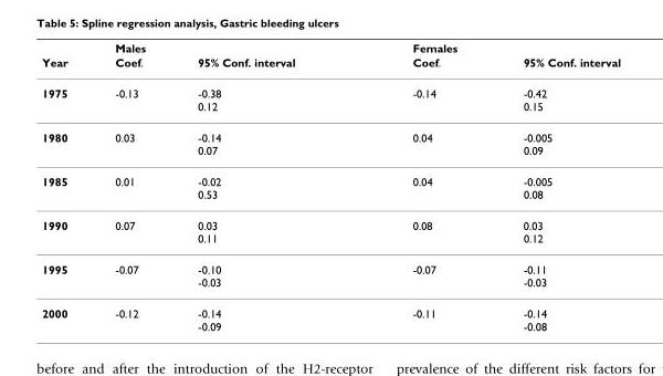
<table><thead><tr><td rowspan="2">Year</td><td rowspan="2">Males Coef.</td><td rowspan="2">95% Conf. interval</td><td rowspan="2">Females Coef.</td><td rowspan="2">95% Conf. interval</td></tr><tr></tr></thead><tbody><tr><td>1975</td><td>-0.13</td><td>-0.38 0.12</td><td>-0.14</td><td>-0.42 0.15</td></tr><tr><td>1980</td><td>0.03</td><td>-0.14 0.07</td><td>0.04</td><td>-0.005 0.09</td></tr><tr><td>1985</td><td>0.01</td><td>-0.02 0.53</td><td>0.04</td><td>-0.005 0.08</td></tr><tr><td>1990</td><td>0.07</td><td>0.03 0.11</td><td>0.08</td><td>0.03 0.12</td></tr><tr><td>1995</td><td>-0.07</td><td>-0.10 -0.03</td><td>-0.07</td><td>-0.11 -0.03</td></tr><tr><td>2000</td><td>-0.12</td><td>-0.14 -0.09</td><td>-0.11</td><td>-0.14 -0.08</td></tr></tbody></table>